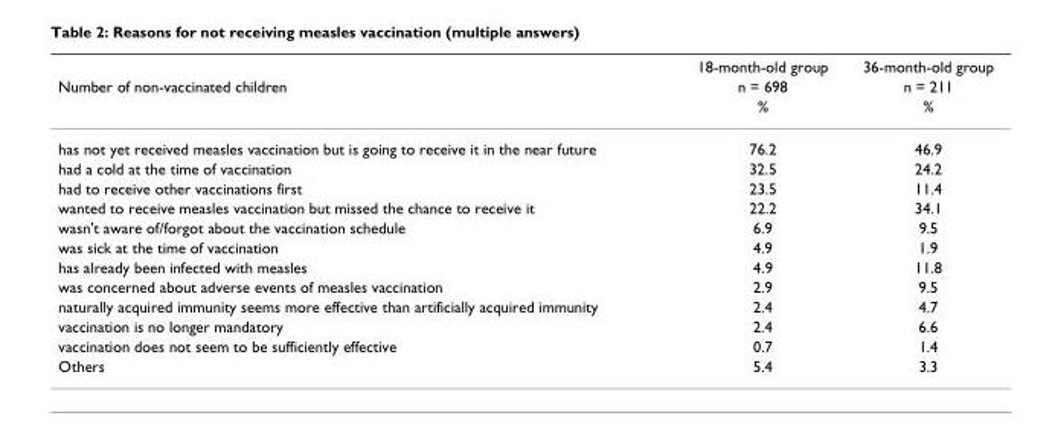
<table><thead><tr><td rowspan="3">Number of non-vaccinated children</td><td rowspan="3">18-month-old group n = 698 %</td><td rowspan="3">36-month-old group n = 211 %</td></tr><tr></tr><tr></tr></thead><tbody><tr><td>has not yet received measles vaccination but is going to receive it in the near future</td><td>76.2</td><td>46.9</td></tr><tr><td>had a cold at the time of vaccination</td><td>32.5</td><td>24.2</td></tr><tr><td>had to receive other vaccinations first</td><td>23.5</td><td>11.4</td></tr><tr><td>wanted to receive measles vaccination but missed the chance to receive it</td><td>22.2</td><td>34.1</td></tr><tr><td>wasn&#x27;t aware of/forgot about the vaccination schedule</td><td>6.9</td><td>9.5</td></tr><tr><td>was sick at the time of vaccination</td><td>4.9</td><td>1.9</td></tr><tr><td>has already been infected with measles</td><td>4.9</td><td>11.8</td></tr><tr><td>was concerned about adverse events of measles vaccination</td><td>2.9</td><td>9.5</td></tr><tr><td>naturally acquired immunity seems more effective than artificially acquired immunity</td><td>2.4</td><td>4.7</td></tr><tr><td>vaccination is no longer mandatory</td><td>2.4</td><td>6.6</td></tr><tr><td>vaccination does not seem to be sufficiently effective</td><td>0.7</td><td>1.4</td></tr><tr><td>Others</td><td>5.4</td><td>3.3</td></tr></tbody></table>